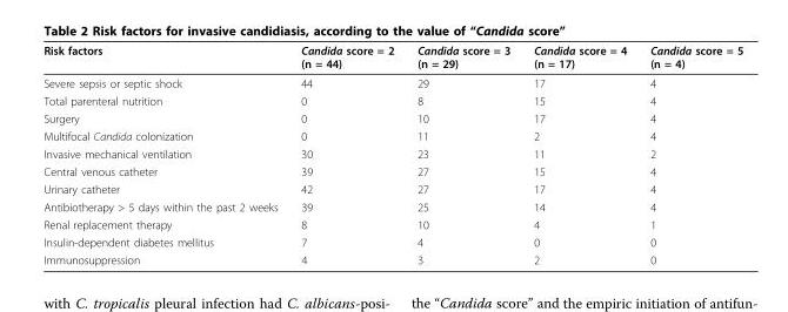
<table><thead><tr><td>Risk factors</td><td>Candida score = 2 (n = 44)</td><td>Candida score = 3 (n = 29)</td><td>Candida score = 4 (n = 17)</td><td>Candida score = 5 (n = 4)</td></tr></thead><tbody><tr><td>Severe sepsis or septic shock</td><td>44</td><td>29</td><td>17</td><td>4</td></tr><tr><td>Total parenteral nutrition</td><td>0</td><td>8</td><td>15</td><td>4</td></tr><tr><td>Surgery</td><td>0</td><td>10</td><td>17</td><td>4</td></tr><tr><td>Multifocal Candida colonization</td><td>0</td><td>11</td><td>2</td><td>4</td></tr><tr><td>Invasive mechanical ventilation</td><td>30</td><td>23</td><td>11</td><td>2</td></tr><tr><td>Central venous catheter</td><td>39</td><td>27</td><td>15</td><td>4</td></tr><tr><td>Urinary catheter</td><td>42</td><td>27</td><td>17</td><td>4</td></tr><tr><td>Antibiotherapy &gt; 5 days within the past 2 weeks</td><td>39</td><td>25</td><td>14</td><td>4</td></tr><tr><td>Renal replacement therapy</td><td>8</td><td>10</td><td>4</td><td>1</td></tr><tr><td>Insulin-dependent diabetes mellitus</td><td>7</td><td>4</td><td>0</td><td>0</td></tr><tr><td>Immunosuppression</td><td>4</td><td>3</td><td>2</td><td>0</td></tr></tbody></table>